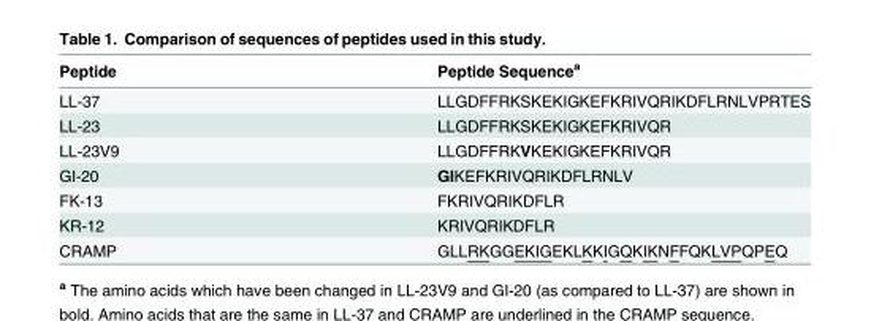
<table><thead><tr><td>Peptide</td><td>Peptide Sequence<sup>a</sup></td></tr></thead><tbody><tr><td>LL-37</td><td>LLGDFFRKSKEKIGKEFKRIVQRIKDFLRNLVPRTES</td></tr><tr><td>LL-23</td><td>LLGDFFRKSKEKIGKEFKRIVQR</td></tr><tr><td>LL-23V9</td><td>LLGDFFRKVKEKIGKEFKRIVQR</td></tr><tr><td>GI-20</td><td>GIKEFKRIVQRIKDFLRNLV</td></tr><tr><td>FK-13</td><td>FKRIVQRIKDFLR</td></tr><tr><td>KR-12</td><td>KRIVQRIKDFLR</td></tr><tr><td>CRAMP</td><td>GLLRKGGEKIGEKLKKIGQKIKNFFQKLVPQPEQ</td></tr></tbody></table>